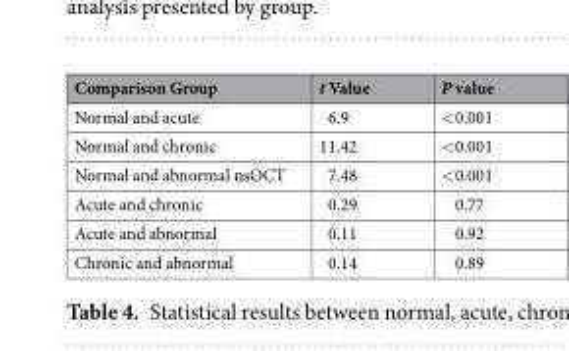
<table><thead><tr><td>Comparison Group</td><td>t Value</td><td>P value</td></tr></thead><tbody><tr><td>Normal and acute</td><td>6.9</td><td>&lt;0.001</td></tr><tr><td>Normal and chronic</td><td>11.42</td><td>&lt;0.001</td></tr><tr><td>Normal and abnormal nsOCT</td><td>7.48</td><td>&lt;0.001</td></tr><tr><td>Acute and chronic</td><td>0.29</td><td>0.77</td></tr><tr><td>Acute and abnormal</td><td>0.11</td><td>0.92</td></tr><tr><td>Chronic and abnormal</td><td>0.14</td><td>0.89</td></tr></tbody></table>